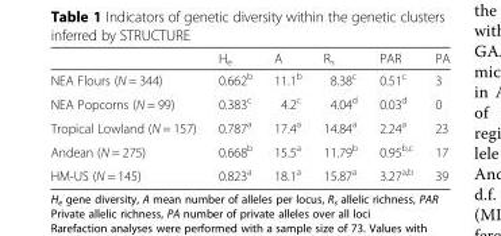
<table><thead><tr><td></td><td>H<sub>e</sub></td><td>A</td><td>R<sub>s</sub></td><td>PAR</td><td>PA</td></tr></thead><tbody><tr><td>NEA Flours (N = 344)</td><td>0.662<sup>b</sup></td><td>11.1<sup>b</sup></td><td>8.38<sup>c</sup></td><td>0.51<sup>c</sup></td><td>3</td></tr><tr><td>NEA Popcorns (N = 99)</td><td>0.383<sup>c</sup></td><td>4.2<sup>c</sup></td><td>4.04<sup>d</sup></td><td>0.03<sup>d</sup></td><td>0</td></tr><tr><td>Tropical Lowland (N = 157)</td><td>0.787<sup>a</sup></td><td>17.4<sup>a</sup></td><td>14.84<sup>a</sup></td><td>2.24<sup>a</sup></td><td>23</td></tr><tr><td>Andean (N = 275)</td><td>0.668<sup>b</sup></td><td>15.5<sup>a</sup></td><td>11.79<sup>b</sup></td><td>0.95<sup>b,c</sup></td><td>17</td></tr><tr><td>HM-US (N = 145)</td><td>0.823<sup>a</sup></td><td>18.1<sup>a</sup></td><td>15.87<sup>a</sup></td><td>3.27<sup>a,b</sup></td><td>39</td></tr></tbody></table>